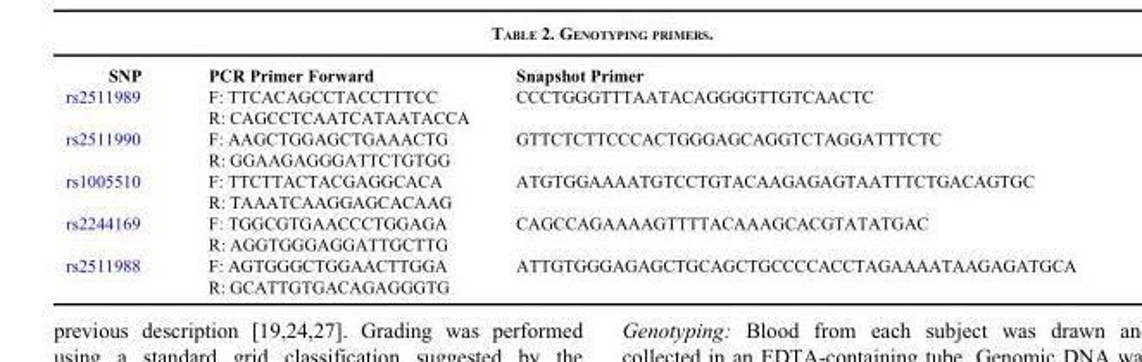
<table><thead><tr><td>SNP</td><td>PCR Primer Forward</td><td>Snapshot Primer</td></tr></thead><tbody><tr><td rowspan="2">rs2511989</td><td>F: TTCACAGCCTACCTTTCC</td><td rowspan="2">CCCTGGGTTTAATACAGGGGTTGTCAACTC</td></tr><tr><td>R: CAGCCTCAATCATAATACCA</td></tr><tr><td rowspan="2">rs2511990</td><td>F: AAGCTGGAGCTGAAACTG</td><td rowspan="2">GTTCTCTTCCCACTGGGAGCAGGTCTAGGATTTCTC</td></tr><tr><td>R: GGAAGAGGGATTCTGTGG</td></tr><tr><td rowspan="2">rs1005510</td><td>F: TTCTTACTACGAGGCACA</td><td rowspan="2">ATGTGGAAAATGTCCTGTACAAGAGAGTAATTTCTGACAGTGC</td></tr><tr><td>R: TAAATCAAGGAGCACAAG</td></tr><tr><td rowspan="2">rs2244169</td><td>F: TGGCGTGAACCCTGGAGA</td><td rowspan="2">CAGCCAGAAAAGTTTTACAAAGCACGTATATGAC</td></tr><tr><td>R: AGGTGGGAGGATTGCTTG</td></tr><tr><td rowspan="2">rs2511988</td><td>F: AGTGGGCTGGAACTTGGA</td><td rowspan="2">ATTGTGGGAGAGCTGCAGCTGCCCCACCTAGAAAATAAGAGATGCA</td></tr><tr><td>R: GCATTGTGACAGAGGGTG</td></tr></tbody></table>